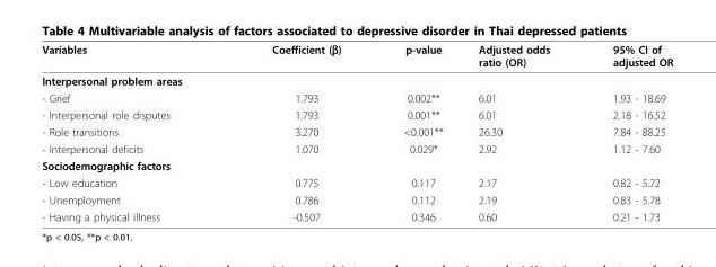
<table><thead><tr><td>Variables</td><td>Coefficient (β)</td><td>p-value</td><td>Adjusted odds ratio (OR)</td><td>95% CI of adjusted OR</td></tr></thead><tbody><tr><td colspan="5">Interpersonal problem areas</td></tr><tr><td>- Grief</td><td>1.793</td><td>0.002**</td><td>6.01</td><td>1.93 - 18.69</td></tr><tr><td>- Interpersonal role disputes</td><td>1.793</td><td>0.001**</td><td>6.01</td><td>2.18 - 16.52</td></tr><tr><td>- Role transitions</td><td>3.270</td><td>&lt;0.001**</td><td>26.30</td><td>7.84 - 88.25</td></tr><tr><td>- Interpersonal deficits</td><td>1.070</td><td>0.029*</td><td>2.92</td><td>1.12 - 7.60</td></tr><tr><td colspan="5">Sociodemographic factors</td></tr><tr><td>- Low education</td><td>0.775</td><td>0.117</td><td>2.17</td><td>0.82 - 5.72</td></tr><tr><td>- Unemployment</td><td>0.786</td><td>0.112</td><td>2.19</td><td>0.83 - 5.78</td></tr><tr><td>- Having a physical illness</td><td>-0.507</td><td>0.346</td><td>0.60</td><td>0.21 - 1.73</td></tr></tbody></table>